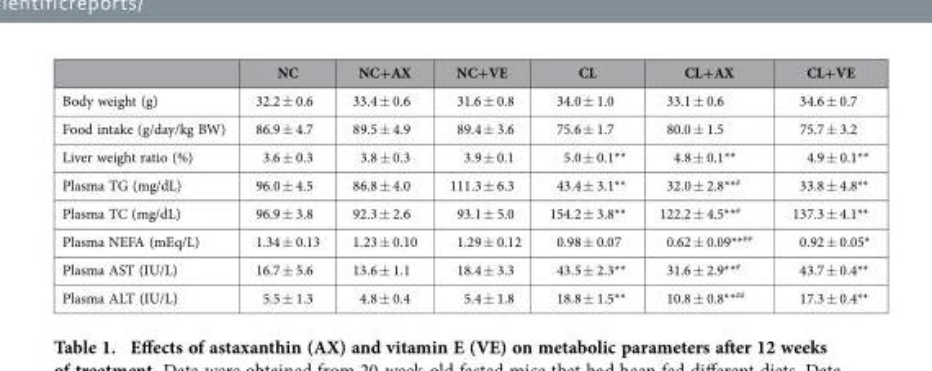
<table><thead><tr><td></td><td>NC</td><td>NC+AX</td><td>NC+VE</td><td>CL</td><td>CL+AX</td><td>CL+VE</td></tr></thead><tbody><tr><td>Body weight (g)</td><td>32.2 ± 0.6</td><td>33.4 ± 0.6</td><td>31.6 ± 0.8</td><td>34.0 ± 1.0</td><td>33.1 ± 0.6</td><td>34.6 ± 0.7</td></tr><tr><td>Food intake (g/day/kg BW)</td><td>86.9 ± 4.7</td><td>89.5 ± 4.9</td><td>89.4 ± 3.6</td><td>75.6 ± 1.7</td><td>80.0 ± 1.5</td><td>75.7 ± 3.2</td></tr><tr><td>Liver weight ratio (%)</td><td>3.6 ± 0.3</td><td>3.8 ± 0.3</td><td>3.9 ± 0.1</td><td>5.0 ± 0.1**</td><td>4.8 ± 0.1**</td><td>4.9 ± 0.1**</td></tr><tr><td>Plasma TG (mg/dL)</td><td>96.0 ± 4.5</td><td>86.8 ± 4.0</td><td>111.3 ± 6.3</td><td>43.4 ± 3.1**</td><td>32.0 ± 2.8**<sup>#</sup></td><td>33.8 ± 4.8**</td></tr><tr><td>Plasma TC (mg/dL)</td><td>96.9 ± 3.8</td><td>92.3 ± 2.6</td><td>93.1 ± 5.0</td><td>154.2 ± 3.8**</td><td>122.2 ± 4.5**<sup>#</sup></td><td>137.3 ± 4.1**</td></tr><tr><td>Plasma NEFA (mEq/L)</td><td>1.34 ± 0.13</td><td>1.23 ± 0.10</td><td>1.29 ± 0.12</td><td>0.98 ± 0.07</td><td>0.62 ± 0.09**<sup>##</sup></td><td>0.92 ± 0.05*</td></tr><tr><td>Plasma AST (IU/L)</td><td>16.7 ± 5.6</td><td>13.6 ± 1.1</td><td>18.4 ± 3.3</td><td>43.5 ± 2.3**</td><td>31.6 ± 2.9**<sup>#</sup></td><td>43.7 ± 0.4**</td></tr><tr><td>Plasma ALT (IU/L)</td><td>5.5 ± 1.3</td><td>4.8 ± 0.4</td><td>5.4 ± 1.8</td><td>18.8 ± 1.5**</td><td>10.8 ± 0.8**<sup>##</sup></td><td>17.3 ± 0.4**</td></tr></tbody></table>